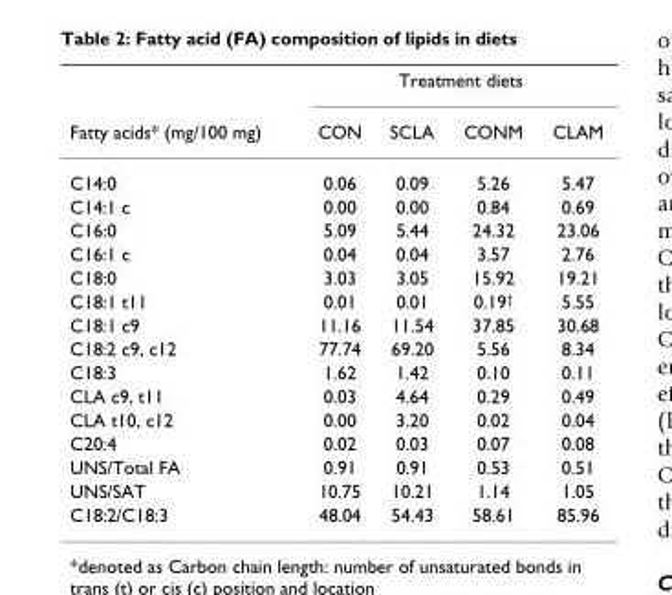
<table><thead><tr><td rowspan="2">Fatty acids* (mg/100 mg)</td><td colspan="4">Treatment diets</td></tr><tr><td>CON</td><td>SCLA</td><td>CONM</td><td>CLAM</td></tr></thead><tbody><tr><td>C14:0</td><td>0.06</td><td>0.09</td><td>5.26</td><td>5.47</td></tr><tr><td>C14:1 c</td><td>0.00</td><td>0.00</td><td>0.84</td><td>0.69</td></tr><tr><td>C16:0</td><td>5.09</td><td>5.44</td><td>24.32</td><td>23.06</td></tr><tr><td>C16:1 c</td><td>0.04</td><td>0.04</td><td>3.57</td><td>2.76</td></tr><tr><td>C18:0</td><td>3.03</td><td>3.05</td><td>15.92</td><td>19.21</td></tr><tr><td>C18:1 t11</td><td>0.01</td><td>0.01</td><td>0.19<sup>†</sup></td><td>5.55</td></tr><tr><td>C18:1 c9</td><td>11.16</td><td>11.54</td><td>37.85</td><td>30.68</td></tr><tr><td>C18:2 c9, c12</td><td>77.74</td><td>69.20</td><td>5.56</td><td>8.34</td></tr><tr><td>C18:3</td><td>1.62</td><td>1.42</td><td>0.10</td><td>0.11</td></tr><tr><td>CLA c9, t11</td><td>0.03</td><td>4.64</td><td>0.29</td><td>0.49</td></tr><tr><td>CLA t10, c12</td><td>0.00</td><td>3.20</td><td>0.02</td><td>0.04</td></tr><tr><td>C20:4</td><td>0.02</td><td>0.03</td><td>0.07</td><td>0.08</td></tr><tr><td>UNS/Total FA</td><td>0.91</td><td>0.91</td><td>0.53</td><td>0.51</td></tr><tr><td>UNS/SAT</td><td>10.75</td><td>10.21</td><td>1.14</td><td>1.05</td></tr><tr><td>C18:2/C18:3</td><td>48.04</td><td>54.43</td><td>58.61</td><td>85.96</td></tr></tbody></table>